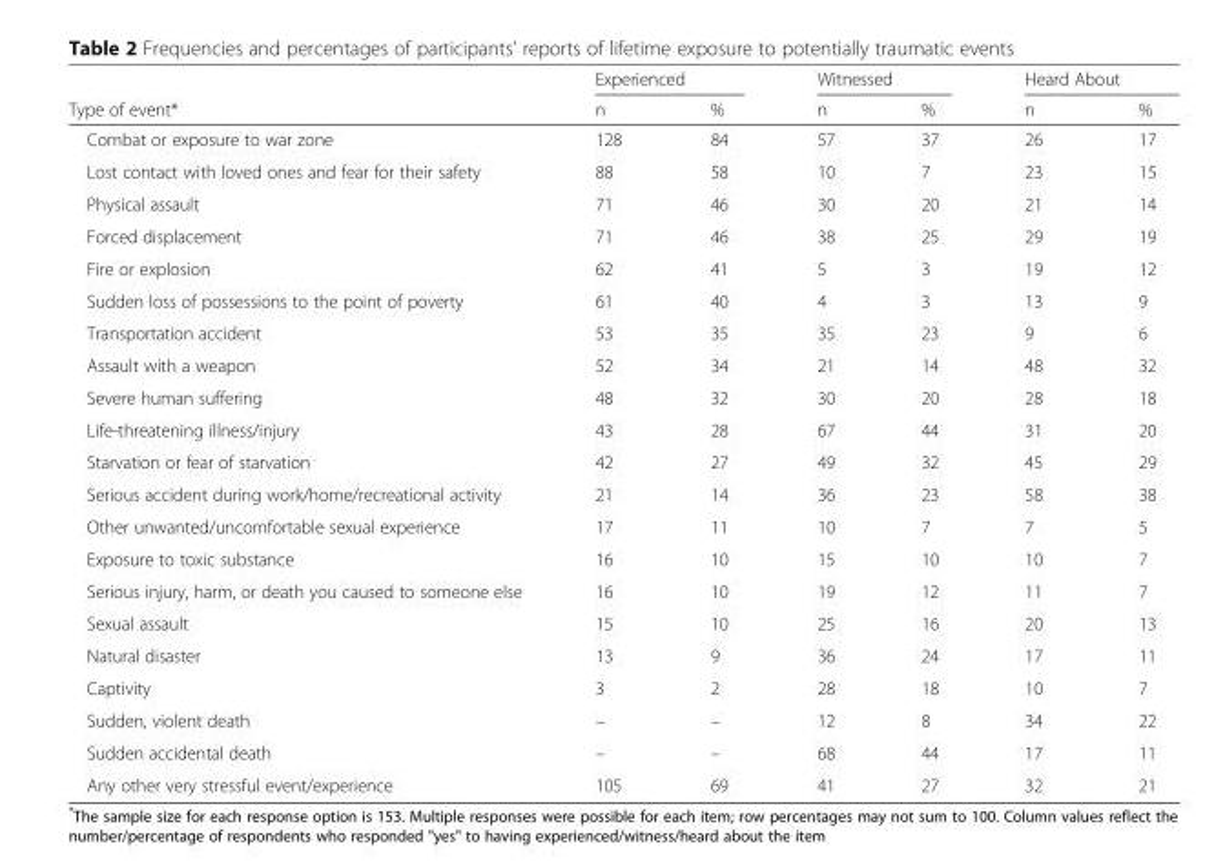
<table><thead><tr><td rowspan="2">Type of event*</td><td colspan="2">Experienced</td><td colspan="2">Witnessed</td><td colspan="2">Heard About</td></tr><tr><td>n</td><td>%</td><td>n</td><td>%</td><td>n</td><td>%</td></tr></thead><tbody><tr><td>Combat or exposure to war zone</td><td>128</td><td>84</td><td>57</td><td>37</td><td>26</td><td>17</td></tr><tr><td>Lost contact with loved ones and fear for their safety</td><td>88</td><td>58</td><td>10</td><td>7</td><td>23</td><td>15</td></tr><tr><td>Physical assault</td><td>71</td><td>46</td><td>30</td><td>20</td><td>21</td><td>14</td></tr><tr><td>Forced displacement</td><td>71</td><td>46</td><td>38</td><td>25</td><td>29</td><td>19</td></tr><tr><td>Fire or explosion</td><td>62</td><td>41</td><td>5</td><td>3</td><td>19</td><td>12</td></tr><tr><td>Sudden loss of possessions to the point of poverty</td><td>61</td><td>40</td><td>4</td><td>3</td><td>13</td><td>9</td></tr><tr><td>Transportation accident</td><td>53</td><td>35</td><td>35</td><td>23</td><td>9</td><td>6</td></tr><tr><td>Assault with a weapon</td><td>52</td><td>34</td><td>21</td><td>14</td><td>48</td><td>32</td></tr><tr><td>Severe human suffering</td><td>48</td><td>32</td><td>30</td><td>20</td><td>28</td><td>18</td></tr><tr><td>Life-threatening illness/injury</td><td>43</td><td>28</td><td>67</td><td>44</td><td>31</td><td>20</td></tr><tr><td>Starvation or fear of starvation</td><td>42</td><td>27</td><td>49</td><td>32</td><td>45</td><td>29</td></tr><tr><td>Serious accident during work/home/recreational activity</td><td>21</td><td>14</td><td>36</td><td>23</td><td>58</td><td>38</td></tr><tr><td>Other unwanted/uncomfortable sexual experience</td><td>17</td><td>11</td><td>10</td><td>7</td><td>7</td><td>5</td></tr><tr><td>Exposure to toxic substance</td><td>16</td><td>10</td><td>15</td><td>10</td><td>10</td><td>7</td></tr><tr><td>Serious injury, harm, or death you caused to someone else</td><td>16</td><td>10</td><td>19</td><td>12</td><td>11</td><td>7</td></tr><tr><td>Sexual assault</td><td>15</td><td>10</td><td>25</td><td>16</td><td>20</td><td>13</td></tr><tr><td>Natural disaster</td><td>13</td><td>9</td><td>36</td><td>24</td><td>17</td><td>11</td></tr><tr><td>Captivity</td><td>3</td><td>2</td><td>28</td><td>18</td><td>10</td><td>7</td></tr><tr><td>Sudden, violent death</td><td>–</td><td>–</td><td>12</td><td>8</td><td>34</td><td>22</td></tr><tr><td>Sudden accidental death</td><td>–</td><td>–</td><td>68</td><td>44</td><td>17</td><td>11</td></tr><tr><td>Any other very stressful event/experience</td><td>105</td><td>69</td><td>41</td><td>27</td><td>32</td><td>21</td></tr></tbody></table>